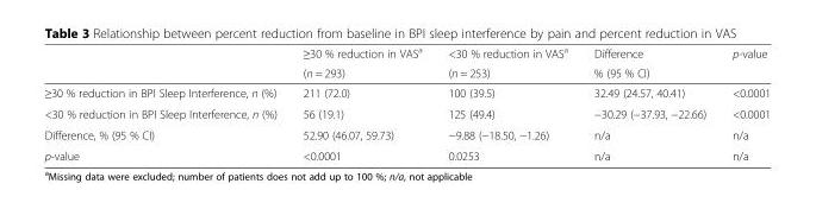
<table><thead><tr><td rowspan="2"></td><td rowspan="2">≥30 % reduction in VAS<sup>a</sup> (n = 293)</td><td rowspan="2">&lt;30 % reduction in VAS<sup>a</sup> (n = 253)</td><td rowspan="2">Difference % (95 % CI)</td><td rowspan="2">p-value</td></tr><tr></tr></thead><tbody><tr><td>≥30 % reduction in BPI Sleep Interference, n (%)</td><td>211 (72.0)</td><td>100 (39.5)</td><td>32.49 (24.57, 40.41)</td><td>&lt;0.0001</td></tr><tr><td>&lt;30 % reduction in BPI Sleep Interference, n (%)</td><td>56 (19.1)</td><td>125 (49.4)</td><td>−30.29 (−37.93, −22.66)</td><td>&lt;0.0001</td></tr><tr><td>Difference, % (95 % CI)</td><td>52.90 (46.07, 59.73)</td><td>−9.88 (−18.50, −1.26)</td><td>n/a</td><td>n/a</td></tr><tr><td>p-value</td><td>&lt;0.0001</td><td>0.0253</td><td>n/a</td><td>n/a</td></tr></tbody></table>